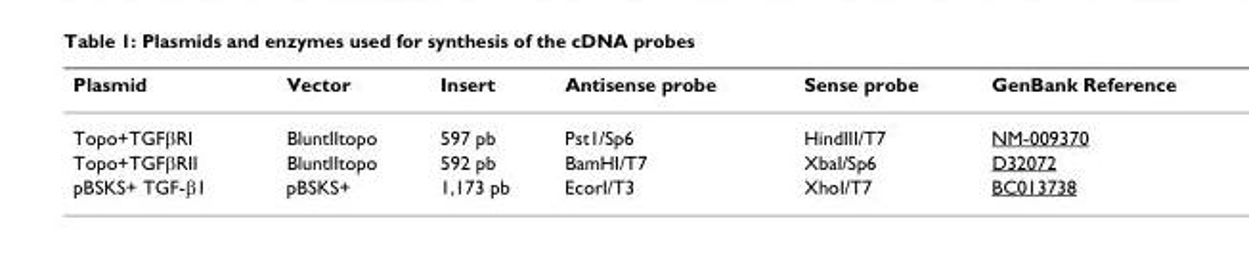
<table><thead><tr><td>Plasmid</td><td>Vector</td><td>Insert</td><td>Antisense probe</td><td>Sense probe</td><td>GenBank Reference</td></tr></thead><tbody><tr><td>Topo+TGFβRI</td><td>BluntIItopo</td><td>597 pb</td><td>Pst1/Sp6</td><td>HindIII/T7</td><td>NM-009370</td></tr><tr><td>Topo+TGFβRII</td><td>BluntIItopo</td><td>592 pb</td><td>BamHI/T7</td><td>XbaI/Sp6</td><td>D32072</td></tr><tr><td>pBSKS+ TGF-β1</td><td>pBSKS+</td><td>1,173 pb</td><td>EcorI/T3</td><td>XhoI/T7</td><td>BC013738</td></tr></tbody></table>